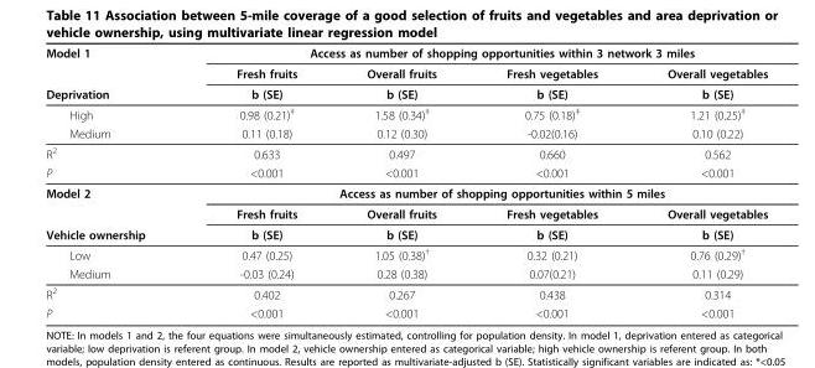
<table><thead><tr><td rowspan="3">Model 1 Deprivation</td><td colspan="4">Access as number of shopping opportunities within 3 network 3 miles</td></tr><tr><td rowspan="2">Fresh fruits b (SE)</td><td rowspan="2">Overall fruits b (SE)</td><td rowspan="2">Fresh vegetables b (SE)</td><td rowspan="2">Overall vegetables b (SE)</td></tr><tr></tr></thead><tbody><tr><td>High</td><td>0.98 (0.21)‡</td><td>1.58 (0.34)‡</td><td>0.75 (0.18)‡</td><td>1.21 (0.25)‡</td></tr><tr><td>Medium</td><td>0.11 (0.18)</td><td>0.12 (0.30)</td><td>-0.02(0.16)</td><td>0.10 (0.22)</td></tr><tr><td>R2</td><td>0.633</td><td>0.497</td><td>0.660</td><td>0.562</td></tr><tr><td>P</td><td>&lt;0.001</td><td>&lt;0.001</td><td>&lt;0.001</td><td>&lt;0.001</td></tr><tr><td rowspan="2">Model 2</td><td colspan="4">Access as number of shopping opportunities within 5 miles</td></tr><tr><td>Fresh fruits</td><td>Overall fruits</td><td>Fresh vegetables</td><td>Overall vegetables</td></tr><tr><td>Vehicle ownership</td><td>b (SE)</td><td>b (SE)</td><td>b (SE)</td><td>b (SE)</td></tr><tr><td>Low</td><td>0.47 (0.25)</td><td>1.05 (0.38)†</td><td>0.32 (0.21)</td><td>0.76 (0.29)†</td></tr><tr><td>Medium</td><td>-0.03 (0.24)</td><td>0.28 (0.38)</td><td>0.07(0.21)</td><td>0.11 (0.29)</td></tr><tr><td>R2</td><td>0.402</td><td>0.267</td><td>0.438</td><td>0.314</td></tr><tr><td>P</td><td>&lt;0.001</td><td>&lt;0.001</td><td>&lt;0.001</td><td>&lt;0.001</td></tr></tbody></table>